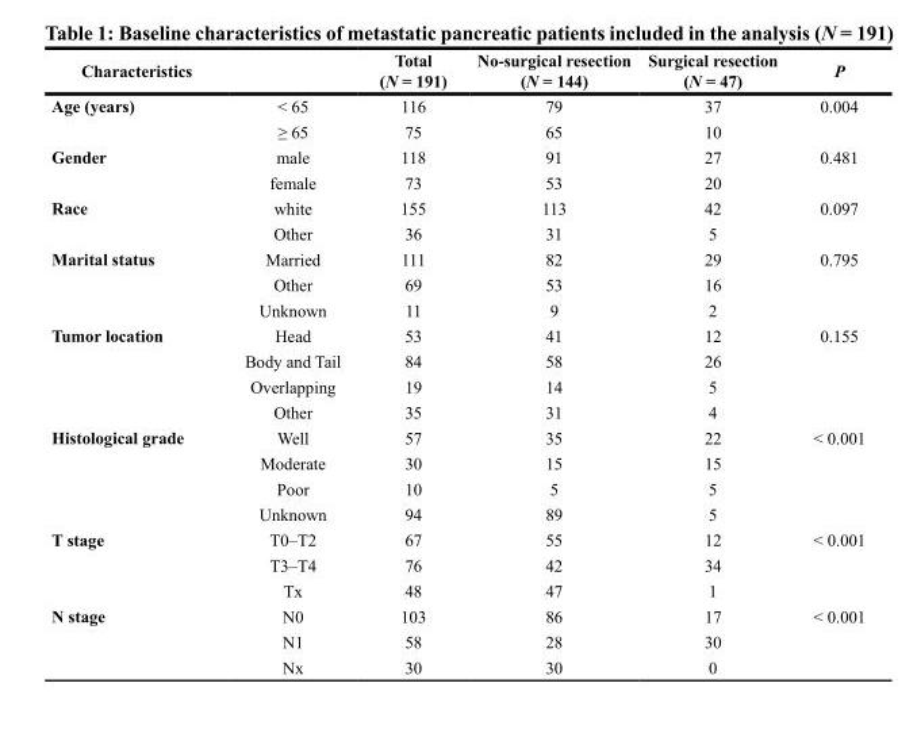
<table><thead><tr><td>Characteristics</td><td></td><td>Total (N = 191)</td><td>No-surgical resection (N = 144)</td><td>Surgical resection (N = 47)</td><td>P</td></tr></thead><tbody><tr><td rowspan="2">Age (years)</td><td>&lt; 65</td><td>116</td><td>79</td><td>37</td><td>0.004</td></tr><tr><td>≥ 65</td><td>75</td><td>65</td><td>10</td><td></td></tr><tr><td rowspan="2">Gender</td><td>male</td><td>118</td><td>91</td><td>27</td><td>0.481</td></tr><tr><td>female</td><td>73</td><td>53</td><td>20</td><td></td></tr><tr><td rowspan="2">Race</td><td>white</td><td>155</td><td>113</td><td>42</td><td>0.097</td></tr><tr><td>Other</td><td>36</td><td>31</td><td>5</td><td></td></tr><tr><td rowspan="3">Marital status</td><td>Married</td><td>111</td><td>82</td><td>29</td><td>0.795</td></tr><tr><td>Other</td><td>69</td><td>53</td><td>16</td><td></td></tr><tr><td>Unknown</td><td>11</td><td>9</td><td>2</td><td></td></tr><tr><td rowspan="4">Tumor location</td><td>Head</td><td>53</td><td>41</td><td>12</td><td>0.155</td></tr><tr><td>Body and Tail</td><td>84</td><td>58</td><td>26</td><td></td></tr><tr><td>Overlapping</td><td>19</td><td>14</td><td>5</td><td></td></tr><tr><td>Other</td><td>35</td><td>31</td><td>4</td><td></td></tr><tr><td rowspan="4">Histological grade</td><td>Well</td><td>57</td><td>35</td><td>22</td><td>&lt; 0.001</td></tr><tr><td>Moderate</td><td>30</td><td>15</td><td>15</td><td></td></tr><tr><td>Poor</td><td>10</td><td>5</td><td>5</td><td></td></tr><tr><td>Unknown</td><td>94</td><td>89</td><td>5</td><td></td></tr><tr><td rowspan="3">T stage</td><td>T0–T2</td><td>67</td><td>55</td><td>12</td><td>&lt; 0.001</td></tr><tr><td>T3–T4</td><td>76</td><td>42</td><td>34</td><td></td></tr><tr><td>Tx</td><td>48</td><td>47</td><td>1</td><td></td></tr><tr><td rowspan="3">N stage</td><td>N0</td><td>103</td><td>86</td><td>17</td><td>&lt; 0.001</td></tr><tr><td>N1</td><td>58</td><td>28</td><td>30</td><td></td></tr><tr><td>Nx</td><td>30</td><td>30</td><td>0</td><td></td></tr></tbody></table>